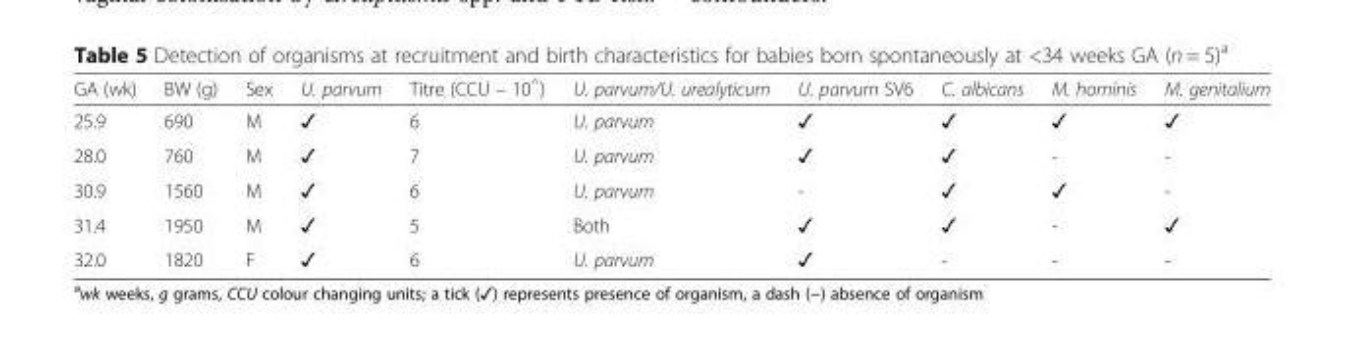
<table><thead><tr><td>GA (wk)</td><td>BW (g)</td><td>Sex</td><td>U. parvum</td><td>Titre (CCU – 10<sup>^</sup>)</td><td>U. parvum/U. urealyticum</td><td>U. parvum SV6</td><td>C. albicans</td><td>M. hominis</td><td>M. genitalium</td></tr></thead><tbody><tr><td>25.9</td><td>690</td><td>M</td><td>✓</td><td>6</td><td>U. parvum</td><td>✓</td><td>✓</td><td>✓</td><td>✓</td></tr><tr><td>28.0</td><td>760</td><td>M</td><td>✓</td><td>7</td><td>U. parvum</td><td>✓</td><td>✓</td><td>-</td><td>-</td></tr><tr><td>30.9</td><td>1560</td><td>M</td><td>✓</td><td>6</td><td>U. parvum</td><td>-</td><td>✓</td><td>✓</td><td>-</td></tr><tr><td>31.4</td><td>1950</td><td>M</td><td>✓</td><td>5</td><td>Both</td><td>✓</td><td>✓</td><td>-</td><td>✓</td></tr><tr><td>32.0</td><td>1820</td><td>F</td><td>✓</td><td>6</td><td>U. parvum</td><td>✓</td><td>-</td><td>-</td><td>-</td></tr></tbody></table>